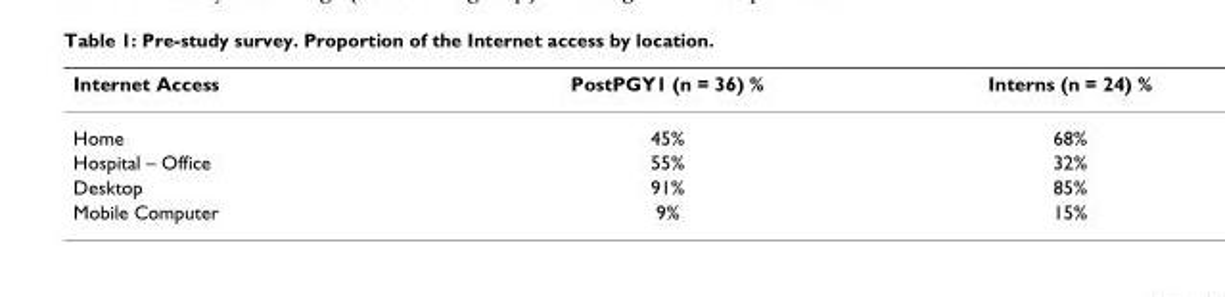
<table><thead><tr><td>Internet Access</td><td>PostPGY1 (n = 36) %</td><td>Interns (n = 24) %</td></tr></thead><tbody><tr><td>Home</td><td>45%</td><td>68%</td></tr><tr><td>Hospital – Office</td><td>55%</td><td>32%</td></tr><tr><td>Desktop</td><td>91%</td><td>85%</td></tr><tr><td>Mobile Computer</td><td>9%</td><td>15%</td></tr></tbody></table>